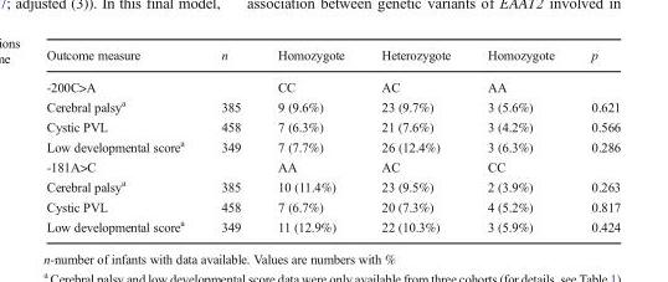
<table><thead><tr><td>Outcome measure</td><td>n</td><td>Homozygote</td><td>Heterozygote</td><td>Homozygote</td><td>p</td></tr></thead><tbody><tr><td>-200C&gt;A</td><td></td><td>CC</td><td>AC</td><td>AA</td><td></td></tr><tr><td>Cerebral palsy<sup>a</sup></td><td>385</td><td>9 (9.6%)</td><td>23 (9.7%)</td><td>3 (5.6%)</td><td>0.621</td></tr><tr><td>Cystic PVL</td><td>458</td><td>7 (6.3%)</td><td>21 (7.6%)</td><td>3 (4.2%)</td><td>0.566</td></tr><tr><td>Low developmental score<sup>a</sup></td><td>349</td><td>7 (7.7%)</td><td>26 (12.4%)</td><td>3 (6.3%)</td><td>0.286</td></tr><tr><td>-181A&gt;C</td><td></td><td>AA</td><td>AC</td><td>CC</td><td></td></tr><tr><td>Cerebral palsy<sup>a</sup></td><td>385</td><td>10 (11.4%)</td><td>23 (9.5%)</td><td>2 (3.9%)</td><td>0.263</td></tr><tr><td>Cystic PVL</td><td>458</td><td>7 (6.7%)</td><td>20 (7.3%)</td><td>4 (5.2%)</td><td>0.817</td></tr><tr><td>Low developmental score<sup>a</sup></td><td>349</td><td>11 (12.9%)</td><td>22 (10.3%)</td><td>3 (5.9%)</td><td>0.424</td></tr></tbody></table>